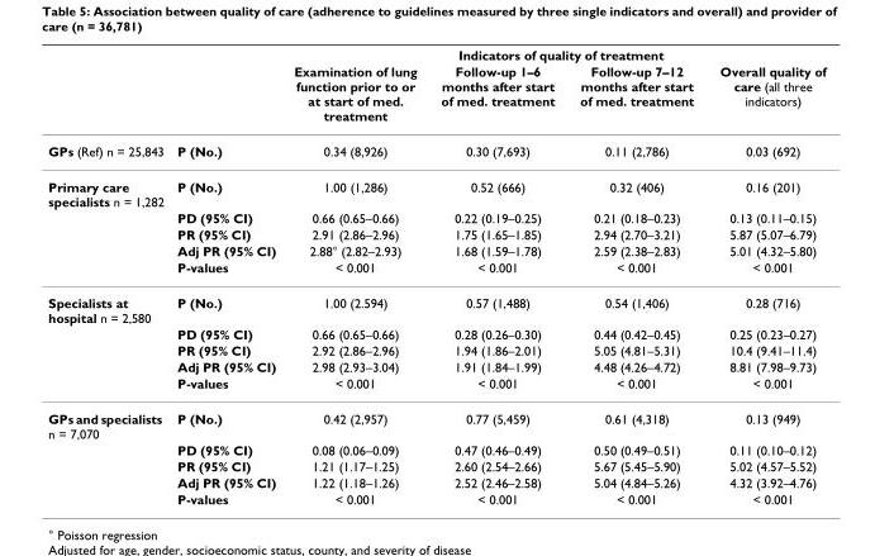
<table><thead><tr><td rowspan="2"></td><td rowspan="2"></td><td colspan="4">Indicators of quality of treatment</td></tr><tr><td>Examination of lung function prior to or at start of med. treatment</td><td>Follow-up 1–6 months after start of med. treatment</td><td>Follow-up 7–12 months after start of med. treatment</td><td>Overall quality of care (all three indicators)</td></tr></thead><tbody><tr><td>GPs (Ref) n = 25,843</td><td>P (No.)</td><td>0.34 (8,926)</td><td>0.30 (7,693)</td><td>0.11 (2,786)</td><td>0.03 (692)</td></tr><tr><td rowspan="5">Primary care specialists n = 1,282</td><td>P (No.)</td><td>1.00 (1,286)</td><td>0.52 (666)</td><td>0.32 (406)</td><td>0.16 (201)</td></tr><tr><td>PD (95% CI)</td><td>0.66 (0.65–0.66)</td><td>0.22 (0.19–0.25)</td><td>0.21 (0.18–0.23)</td><td>0.13 (0.11–0.15)</td></tr><tr><td>PR (95% CI)</td><td>2.91 (2.86–2.96)</td><td>1.75 (1.65–1.85)</td><td>2.94 (2.70–3.21)</td><td>5.87 (5.07–6.79)</td></tr><tr><td>Adj PR (95% CI)</td><td>2.88° (2.82–2.93)</td><td>1.68 (1.59–1.78)</td><td>2.59 (2.38–2.83)</td><td>5.01 (4.32–5.80)</td></tr><tr><td>P-values</td><td>&lt; 0.001</td><td>&lt; 0.001</td><td>&lt; 0.001</td><td>&lt; 0.001</td></tr><tr><td rowspan="5">Specialists at hospital n = 2,580</td><td>P (No.)</td><td>1.00 (2.594)</td><td>0.57 (1,488)</td><td>0.54 (1,406)</td><td>0.28 (716)</td></tr><tr><td>PD (95% CI)</td><td>0.66 (0.65–0.66)</td><td>0.28 (0.26–0.30)</td><td>0.44 (0.42–0.45)</td><td>0.25 (0.23–0.27)</td></tr><tr><td>PR (95% CI)</td><td>2.92 (2.86–2.96)</td><td>1.94 (1.86–2.01)</td><td>5.05 (4.81–5.31)</td><td>10.4 (9.41–11.4)</td></tr><tr><td>Adj PR (95% CI)</td><td>2.98 (2.93–3.04)</td><td>1.91 (1.84–1.99)</td><td>4.48 (4.26–4.72)</td><td>8.81 (7.98–9.73)</td></tr><tr><td>P-values</td><td>&lt; 0.001</td><td>&lt; 0.001</td><td>&lt; 0.001</td><td>&lt; 0.001</td></tr><tr><td rowspan="5">GPs and specialists n = 7,070</td><td>P (No.)</td><td>0.42 (2,957)</td><td>0.77 (5,459)</td><td>0.61 (4,318)</td><td>0.13 (949)</td></tr><tr><td>PD (95% CI)</td><td>0.08 (0.06–0.09)</td><td>0.47 (0.46–0.49)</td><td>0.50 (0.49–0.51)</td><td>0.11 (0.10–0.12)</td></tr><tr><td>PR (95% CI)</td><td>1.21 (1.17–1.25)</td><td>2.60 (2.54–2.66)</td><td>5.67 (5.45–5.90)</td><td>5.02 (4.57–5.52)</td></tr><tr><td>Adj PR (95% CI)</td><td>1.22 (1.18–1.26)</td><td>2.52 (2.46–2.58)</td><td>5.04 (4.84–5.26)</td><td>4.32 (3.92–4.76)</td></tr><tr><td>P-values</td><td>&lt; 0.001</td><td>&lt; 0.001</td><td>&lt; 0.001</td><td>&lt; 0.001</td></tr></tbody></table>